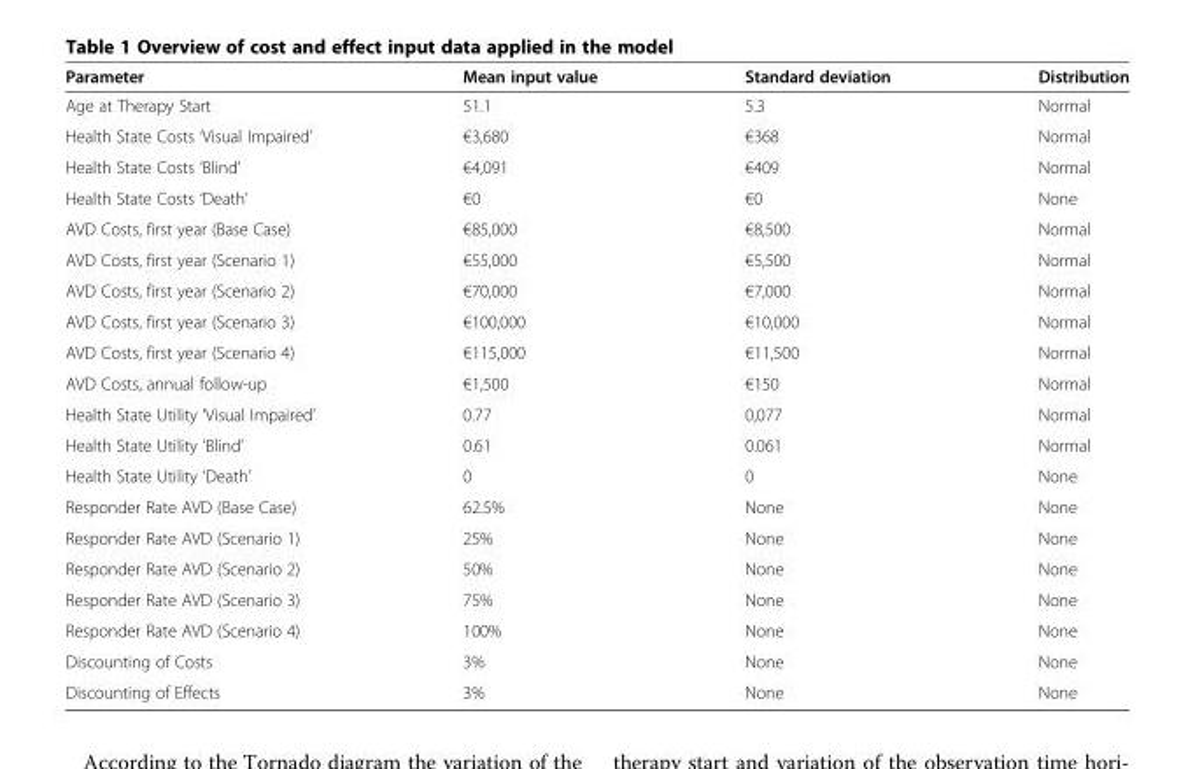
<table><thead><tr><td>Parameter</td><td>Mean input value</td><td>Standard deviation</td><td>Distribution</td></tr></thead><tbody><tr><td>Age at Therapy Start</td><td>51.1</td><td>5.3</td><td>Normal</td></tr><tr><td>Health State Costs ‘Visual Impaired’</td><td>€3,680</td><td>€368</td><td>Normal</td></tr><tr><td>Health State Costs ‘Blind’</td><td>€4,091</td><td>€409</td><td>Normal</td></tr><tr><td>Health State Costs ‘Death’</td><td>€0</td><td>€0</td><td>None</td></tr><tr><td>AVD Costs, first year (Base Case)</td><td>€85,000</td><td>€8,500</td><td>Normal</td></tr><tr><td>AVD Costs, first year (Scenario 1)</td><td>€55,000</td><td>€5,500</td><td>Normal</td></tr><tr><td>AVD Costs, first year (Scenario 2)</td><td>€70,000</td><td>€7,000</td><td>Normal</td></tr><tr><td>AVD Costs, first year (Scenario 3)</td><td>€100,000</td><td>€10,000</td><td>Normal</td></tr><tr><td>AVD Costs, first year (Scenario 4)</td><td>€115,000</td><td>€11,500</td><td>Normal</td></tr><tr><td>AVD Costs, annual follow-up</td><td>€1,500</td><td>€150</td><td>Normal</td></tr><tr><td>Health State Utility ‘Visual Impaired’</td><td>0.77</td><td>0,077</td><td>Normal</td></tr><tr><td>Health State Utility ‘Blind’</td><td>0.61</td><td>0.061</td><td>Normal</td></tr><tr><td>Health State Utility ‘Death’</td><td>0</td><td>0</td><td>None</td></tr><tr><td>Responder Rate AVD (Base Case)</td><td>62.5%</td><td>None</td><td>None</td></tr><tr><td>Responder Rate AVD (Scenario 1)</td><td>25%</td><td>None</td><td>None</td></tr><tr><td>Responder Rate AVD (Scenario 2)</td><td>50%</td><td>None</td><td>None</td></tr><tr><td>Responder Rate AVD (Scenario 3)</td><td>75%</td><td>None</td><td>None</td></tr><tr><td>Responder Rate AVD (Scenario 4)</td><td>100%</td><td>None</td><td>None</td></tr><tr><td>Discounting of Costs</td><td>3%</td><td>None</td><td>None</td></tr><tr><td>Discounting of Effects</td><td>3%</td><td>None</td><td>None</td></tr></tbody></table>